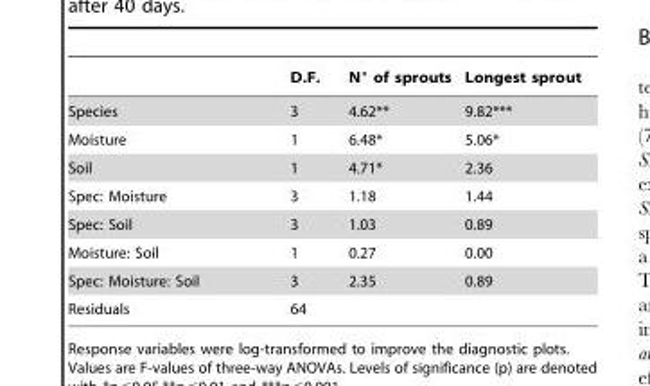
<table><thead><tr><td></td><td>D.F.</td><td>N° of sprouts</td><td>Longest sprout</td></tr></thead><tbody><tr><td>Species</td><td>3</td><td>4.62**</td><td>9.82***</td></tr><tr><td>Moisture</td><td>1</td><td>6.48*</td><td>5.06*</td></tr><tr><td>Soil</td><td>1</td><td>4.71*</td><td>2.36</td></tr><tr><td>Spec: Moisture</td><td>3</td><td>1.18</td><td>1.44</td></tr><tr><td>Spec: Soil</td><td>3</td><td>1.03</td><td>0.89</td></tr><tr><td>Moisture: Soil</td><td>1</td><td>0.27</td><td>0.00</td></tr><tr><td>Spec: Moisture: Soil</td><td>3</td><td>2.35</td><td>0.89</td></tr><tr><td>Residuals</td><td>64</td><td></td><td></td></tr></tbody></table>